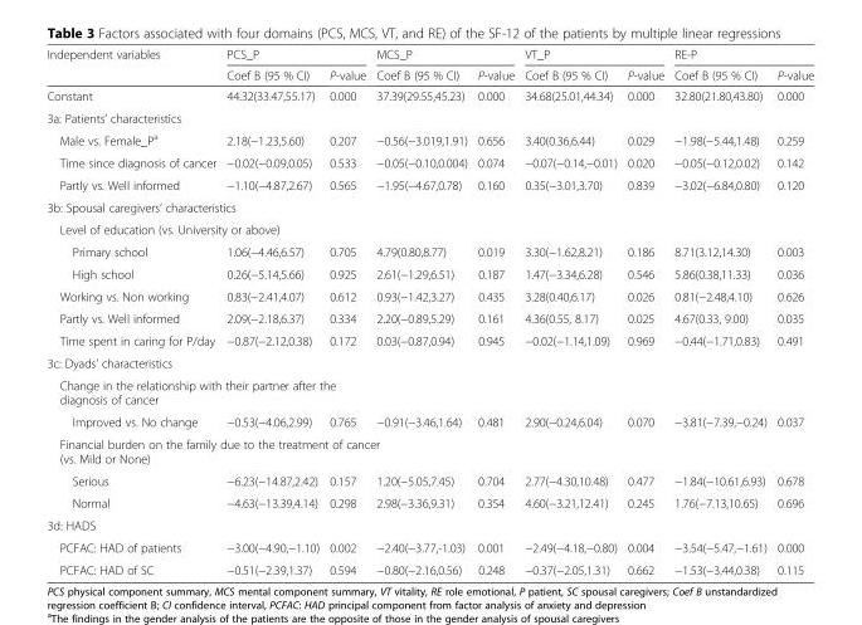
<table><thead><tr><td rowspan="2">Independent variables</td><td colspan="2">PCS_P</td><td colspan="2">MCS_P</td><td colspan="2">VT_P</td><td colspan="2">RE-P</td></tr><tr><td>Coef B (95 % CI)</td><td>P-value</td><td>Coef B (95 % CI)</td><td>P-value</td><td>Coef B (95 % CI)</td><td>P-value</td><td>Coef B (95 % CI)</td><td>P-value</td></tr></thead><tbody><tr><td>Constant</td><td>44.32(33.47,55.17)</td><td>0.000</td><td>37.39(29.55,45.23)</td><td>0.000</td><td>34.68(25.01,44.34)</td><td>0.000</td><td>32.80(21.80,43.80)</td><td>0.000</td></tr><tr><td colspan="9">3a: Patients’ characteristics</td></tr><tr><td>Male vs. Female_P<sup>a</sup></td><td>2.18(−1.23,5.60)</td><td>0.207</td><td>−0.56(−3.019,1.91)</td><td>0.656</td><td>3.40(0.36,6.44)</td><td>0.029</td><td>−1.98(−5.44,1.48)</td><td>0.259</td></tr><tr><td>Time since diagnosis of cancer</td><td>−0.02(−0.09,0.05)</td><td>0.533</td><td>−0.05(−0.10,0.004)</td><td>0.074</td><td>−0.07(−0.14,−0.01)</td><td>0.020</td><td>−0.05(−0.12,0.02)</td><td>0.142</td></tr><tr><td>Partly vs. Well informed</td><td>−1.10(−4.87,2.67)</td><td>0.565</td><td>−1.95(−4.67,0.78)</td><td>0.160</td><td>0.35(−3.01,3.70)</td><td>0.839</td><td>−3.02(−6.84,0.80)</td><td>0.120</td></tr><tr><td colspan="9">3b: Spousal caregivers’ characteristics</td></tr><tr><td colspan="9">Level of education (vs. University or above)</td></tr><tr><td>Primary school</td><td>1.06(−4.46,6.57)</td><td>0.705</td><td>4.79(0.80,8.77)</td><td>0.019</td><td>3.30(−1.62,8.21)</td><td>0.186</td><td>8.71(3.12,14.30)</td><td>0.003</td></tr><tr><td>High school</td><td>0.26(−5.14,5.66)</td><td>0.925</td><td>2.61(−1.29,6.51)</td><td>0.187</td><td>1.47(−3.34,6.28)</td><td>0.546</td><td>5.86(0.38,11.33)</td><td>0.036</td></tr><tr><td>Working vs. Non working</td><td>0.83(−2.41,4.07)</td><td>0.612</td><td>0.93(−1.42,3.27)</td><td>0.435</td><td>3.28(0.40,6.17)</td><td>0.026</td><td>0.81(−2.48,4.10)</td><td>0.626</td></tr><tr><td>Partly vs. Well informed</td><td>2.09(−2.18,6.37)</td><td>0.334</td><td>2.20(−0.89,5.29)</td><td>0.161</td><td>4.36(0.55, 8.17)</td><td>0.025</td><td>4.67(0.33, 9.00)</td><td>0.035</td></tr><tr><td>Time spent in caring for P/day</td><td>−0.87(−2.12,0.38)</td><td>0.172</td><td>0.03(−0.87,0.94)</td><td>0.945</td><td>−0.02(−1.14,1.09)</td><td>0.969</td><td>−0.44(−1.71,0.83)</td><td>0.491</td></tr><tr><td colspan="9">3c: Dyads’ characteristics</td></tr><tr><td colspan="9">Change in the relationship with their partner after the diagnosis of cancer</td></tr><tr><td>Improved vs. No change</td><td>−0.53(−4.06,2.99)</td><td>0.765</td><td>−0.91(−3.46,1.64)</td><td>0.481</td><td>2.90(−0.24,6.04)</td><td>0.070</td><td>−3.81(−7.39,−0.24)</td><td>0.037</td></tr><tr><td colspan="9">Financial burden on the family due to the treatment of cancer (vs. Mild or None)</td></tr><tr><td>Serious</td><td>−6.23(−14.87,2.42)</td><td>0.157</td><td>1.20(−5.05,7.45)</td><td>0.704</td><td>2.77(−4.30,10.48)</td><td>0.477</td><td>−1.84(−10.61,6.93)</td><td>0.678</td></tr><tr><td>Normal</td><td>−4.63(−13.39,4.14)</td><td>0.298</td><td>2.98(−3.36,9.31)</td><td>0.354</td><td>4.60(−3.21,12.41)</td><td>0.245</td><td>1.76(−7.13,10.65)</td><td>0.696</td></tr><tr><td colspan="9">3d: HADS</td></tr><tr><td>PCFAC: HAD of patients</td><td>−3.00(−4.90,−1.10)</td><td>0.002</td><td>−2.40(−3.77,-1.03)</td><td>0.001</td><td>−2.49(−4.18,−0.80)</td><td>0.004</td><td>−3.54(−5.47,−1.61)</td><td>0.000</td></tr><tr><td>PCFAC: HAD of SC</td><td>−0.51(−2.39,1.37)</td><td>0.594</td><td>−0.80(−2.16,0.56)</td><td>0.248</td><td>−0.37(−2.05,1.31)</td><td>0.662</td><td>−1.53(−3.44,0.38)</td><td>0.115</td></tr></tbody></table>